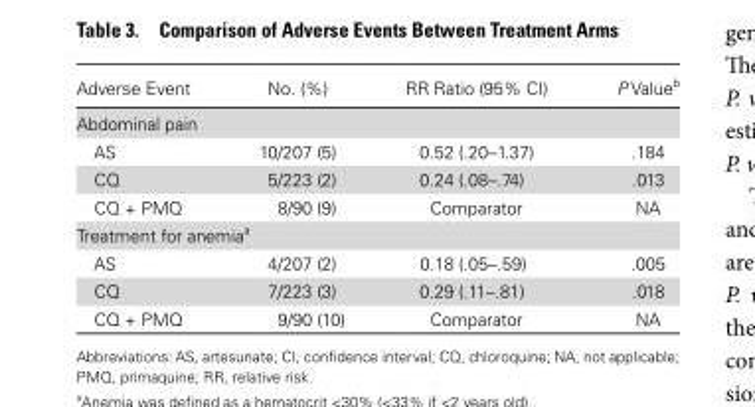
<table><thead><tr><td>Adverse Event</td><td>No. (%)</td><td>RR Ratio (95% CI)</td><td>P Value<sup>b</sup></td></tr></thead><tbody><tr><td colspan="4">Abdominal pain</td></tr><tr><td>AS</td><td>10/207 (5)</td><td>0.52 (.20–1.37)</td><td>.184</td></tr><tr><td>CQ</td><td>5/223 (2)</td><td>0.24 (.08–.74)</td><td>.013</td></tr><tr><td>CQ + PMQ</td><td>8/90 (9)</td><td>Comparator</td><td>NA</td></tr><tr><td colspan="4">Treatment for anemia<sup>a</sup></td></tr><tr><td>AS</td><td>4/207 (2)</td><td>0.18 (.05–.59)</td><td>.005</td></tr><tr><td>CQ</td><td>7/223 (3)</td><td>0.29 (.11–.81)</td><td>.018</td></tr><tr><td>CQ + PMQ</td><td>9/90 (10)</td><td>Comparator</td><td>NA</td></tr></tbody></table>